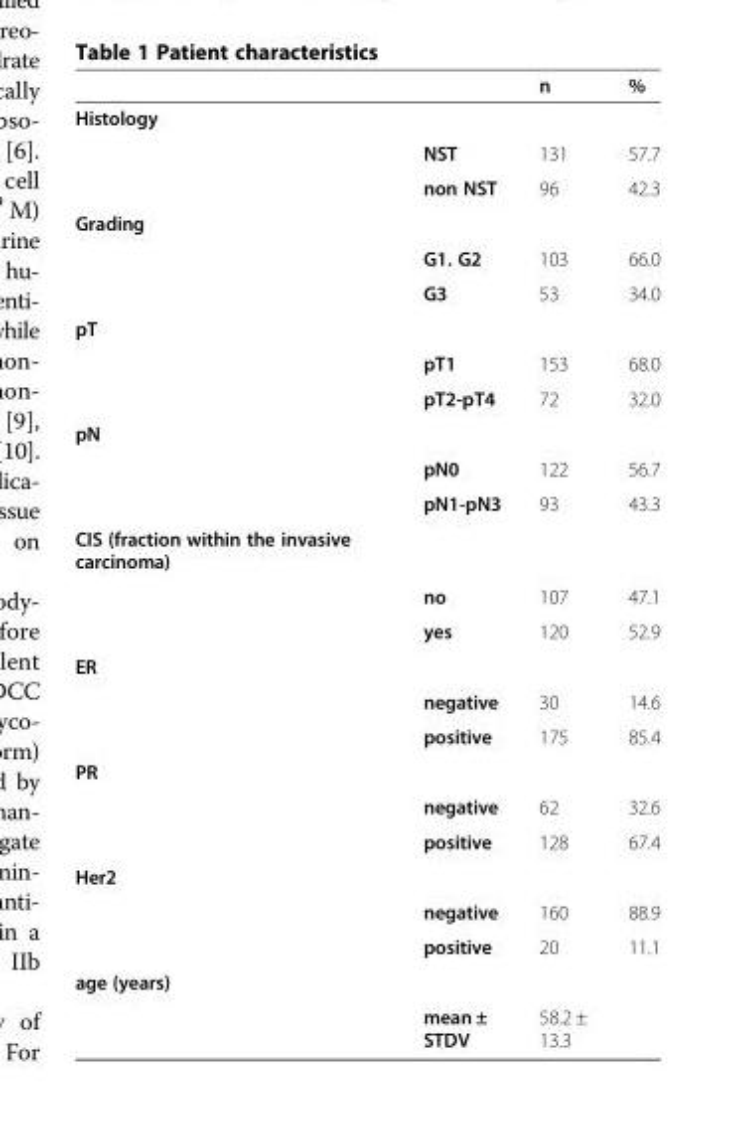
<table><thead><tr><td></td><td></td><td>n</td><td>%</td></tr></thead><tbody><tr><td colspan="4">Histology</td></tr><tr><td></td><td>NST</td><td>131</td><td>57.7</td></tr><tr><td></td><td>non NST</td><td>96</td><td>42.3</td></tr><tr><td colspan="4">Grading</td></tr><tr><td></td><td>G1. G2</td><td>103</td><td>66.0</td></tr><tr><td></td><td>G3</td><td>53</td><td>34.0</td></tr><tr><td colspan="4">pT</td></tr><tr><td></td><td>pT1</td><td>153</td><td>68.0</td></tr><tr><td></td><td>pT2-pT4</td><td>72</td><td>32.0</td></tr><tr><td colspan="4">pN</td></tr><tr><td></td><td>pN0</td><td>122</td><td>56.7</td></tr><tr><td></td><td>pN1-pN3</td><td>93</td><td>43.3</td></tr><tr><td colspan="4">CIS (fraction within the invasive carcinoma)</td></tr><tr><td></td><td>no</td><td>107</td><td>47.1</td></tr><tr><td></td><td>yes</td><td>120</td><td>52.9</td></tr><tr><td colspan="4">ER</td></tr><tr><td></td><td>negative</td><td>30</td><td>14.6</td></tr><tr><td></td><td>positive</td><td>175</td><td>85.4</td></tr><tr><td colspan="4">PR</td></tr><tr><td></td><td>negative</td><td>62</td><td>32.6</td></tr><tr><td></td><td>positive</td><td>128</td><td>67.4</td></tr><tr><td colspan="4">Her2</td></tr><tr><td></td><td>negative</td><td>160</td><td>88.9</td></tr><tr><td></td><td>positive</td><td>20</td><td>11.1</td></tr><tr><td colspan="4">age (years)</td></tr><tr><td></td><td>mean ± STDV</td><td>58.2 ± 13.3</td><td></td></tr></tbody></table>